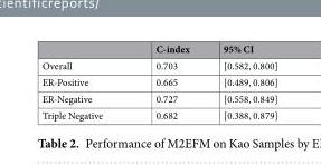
<table><thead><tr><td></td><td>C-index</td><td>95% CI</td></tr></thead><tbody><tr><td>Overall</td><td>0.703</td><td>[0.582, 0.800]</td></tr><tr><td>ER-Positive</td><td>0.665</td><td>[0.489, 0.806]</td></tr><tr><td>ER-Negative</td><td>0.727</td><td>[0.558, 0.849]</td></tr><tr><td>Triple Negative</td><td>0.682</td><td>[0.388, 0.879]</td></tr></tbody></table>